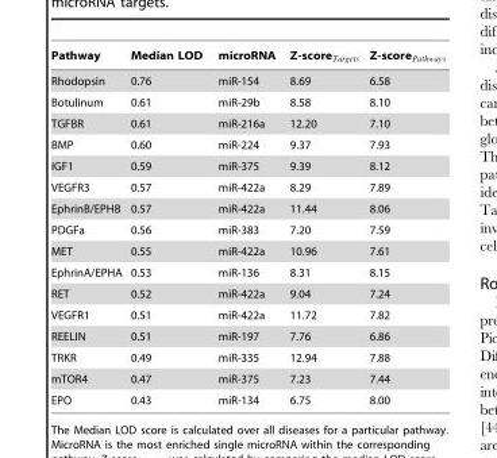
<table><thead><tr><td>Pathway</td><td>Median LOD</td><td>microRNA</td><td>Z-scoreTargets</td><td>Z-scorePathways</td></tr></thead><tbody><tr><td>Rhodopsin</td><td>0.76</td><td>miR-154</td><td>8.69</td><td>6.58</td></tr><tr><td>Botulinum</td><td>0.61</td><td>miR-29b</td><td>8.58</td><td>8.10</td></tr><tr><td>TGFBR</td><td>0.61</td><td>miR-216a</td><td>12.20</td><td>7.10</td></tr><tr><td>BMP</td><td>0.60</td><td>miR-224</td><td>9.37</td><td>7.93</td></tr><tr><td>IGF1</td><td>0.59</td><td>miR-375</td><td>9.39</td><td>8.12</td></tr><tr><td>VEGFR3</td><td>0.57</td><td>miR-422a</td><td>8.29</td><td>7.89</td></tr><tr><td>EphrinB/EPHB</td><td>0.57</td><td>miR-422a</td><td>11.44</td><td>8.06</td></tr><tr><td>PDGFa</td><td>0.56</td><td>miR-383</td><td>7.20</td><td>7.59</td></tr><tr><td>MET</td><td>0.55</td><td>miR-422a</td><td>10.96</td><td>7.61</td></tr><tr><td>EphrinA/EPHA</td><td>0.53</td><td>miR-136</td><td>8.31</td><td>8.15</td></tr><tr><td>RET</td><td>0.52</td><td>miR-422a</td><td>9.04</td><td>7.24</td></tr><tr><td>VEGFR1</td><td>0.51</td><td>miR-422a</td><td>11.72</td><td>7.82</td></tr><tr><td>REELIN</td><td>0.51</td><td>miR-197</td><td>7.76</td><td>6.86</td></tr><tr><td>TRKR</td><td>0.49</td><td>miR-335</td><td>12.94</td><td>7.88</td></tr><tr><td>mTOR4</td><td>0.47</td><td>miR-375</td><td>7.23</td><td>7.44</td></tr><tr><td>EPO</td><td>0.43</td><td>miR-134</td><td>6.75</td><td>8.00</td></tr></tbody></table>